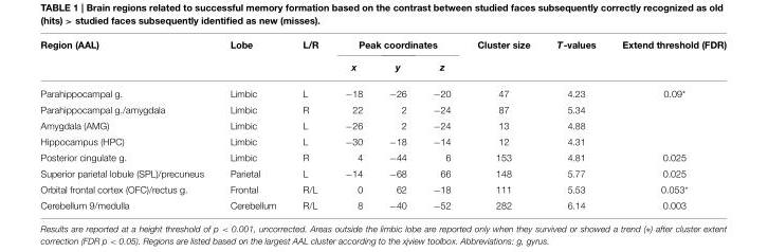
<table><thead><tr><td rowspan="2">Region (AAL)</td><td rowspan="2">Lobe</td><td rowspan="2">L/R</td><td colspan="3">Peak coordinates</td><td rowspan="2">Cluster size</td><td rowspan="2">T-values</td><td rowspan="2">Extend threshold (FDR)</td></tr><tr><td>x</td><td>y</td><td>z</td></tr></thead><tbody><tr><td>Parahippocampal g.</td><td>Limbic</td><td>L</td><td>−18</td><td>−26</td><td>−20</td><td>47</td><td>4.23</td><td>0.09*</td></tr><tr><td>Parahippocampal g./amygdala</td><td>Limbic</td><td>R</td><td>22</td><td>2</td><td>−24</td><td>87</td><td>5.34</td><td></td></tr><tr><td>Amygdala (AMG)</td><td>Limbic</td><td>L</td><td>−26</td><td>2</td><td>−24</td><td>13</td><td>4.88</td><td></td></tr><tr><td>Hippocampus (HPC)</td><td>Limbic</td><td>L</td><td>−30</td><td>−18</td><td>−14</td><td>12</td><td>4.31</td><td></td></tr><tr><td>Posterior cingulate g.</td><td>Limbic</td><td>R</td><td>4</td><td>−44</td><td>6</td><td>153</td><td>4.81</td><td>0.025</td></tr><tr><td>Superior parietal lobule (SPL)/precuneus</td><td>Parietal</td><td>L</td><td>−14</td><td>−68</td><td>66</td><td>148</td><td>5.77</td><td>0.025</td></tr><tr><td>Orbital frontal cortex (OFC)/rectus g.</td><td>Frontal</td><td>R/L</td><td>0</td><td>62</td><td>−18</td><td>111</td><td>5.53</td><td>0.053*</td></tr><tr><td>Cerebellum 9/medulla</td><td>Cerebellum</td><td>R/L</td><td>8</td><td>−40</td><td>−52</td><td>282</td><td>6.14</td><td>0.003</td></tr></tbody></table>